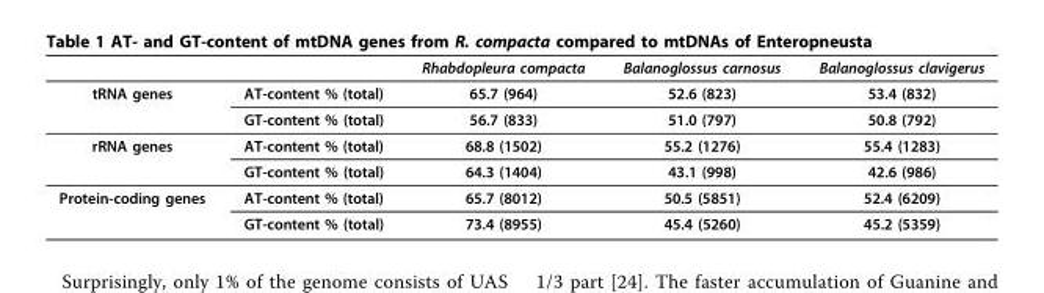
<table><thead><tr><td></td><td></td><td>Rhabdopleura compacta</td><td>Balanoglossus carnosus</td><td>Balanoglossus clavigerus</td></tr></thead><tbody><tr><td rowspan="2">tRNA genes</td><td>AT-content % (total)</td><td>65.7 (964)</td><td>52.6 (823)</td><td>53.4 (832)</td></tr><tr><td>GT-content % (total)</td><td>56.7 (833)</td><td>51.0 (797)</td><td>50.8 (792)</td></tr><tr><td rowspan="2">rRNA genes</td><td>AT-content % (total)</td><td>68.8 (1502)</td><td>55.2 (1276)</td><td>55.4 (1283)</td></tr><tr><td>GT-content % (total)</td><td>64.3 (1404)</td><td>43.1 (998)</td><td>42.6 (986)</td></tr><tr><td rowspan="2">Protein-coding genes</td><td>AT-content % (total)</td><td>65.7 (8012)</td><td>50.5 (5851)</td><td>52.4 (6209)</td></tr><tr><td>GT-content % (total)</td><td>73.4 (8955)</td><td>45.4 (5260)</td><td>45.2 (5359)</td></tr></tbody></table>